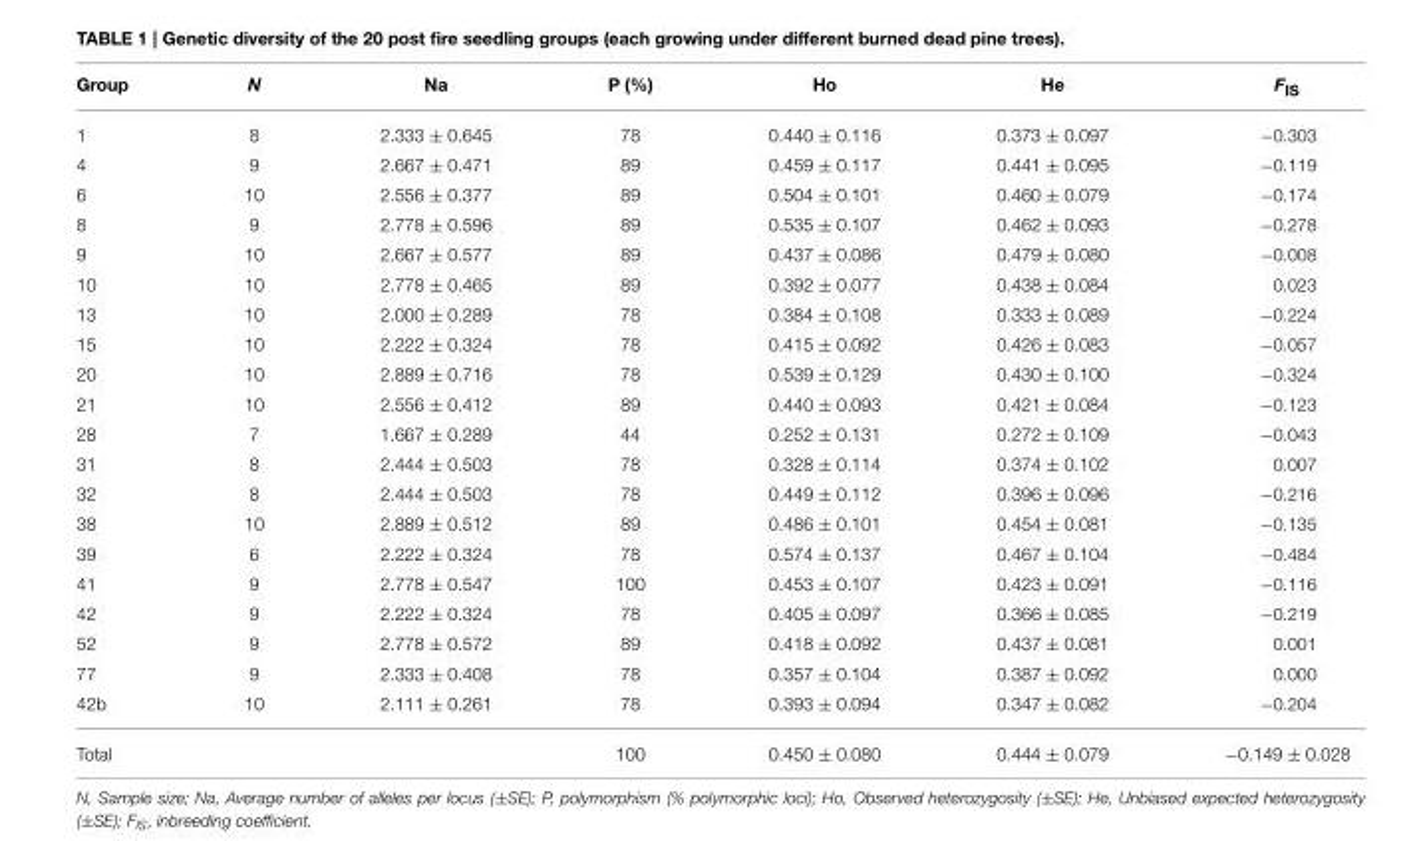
<table><thead><tr><td>Group</td><td>N</td><td>Na</td><td>P (%)</td><td>Ho</td><td>He</td><td>F<sub>IS</sub></td></tr></thead><tbody><tr><td>1</td><td>8</td><td>2.333 ± 0.645</td><td>78</td><td>0.440 ± 0.116</td><td>0.373 ± 0.097</td><td>−0.303</td></tr><tr><td>4</td><td>9</td><td>2.667 ± 0.471</td><td>89</td><td>0.459 ± 0.117</td><td>0.441 ± 0.095</td><td>−0.119</td></tr><tr><td>6</td><td>10</td><td>2.556 ± 0.377</td><td>89</td><td>0.504 ± 0.101</td><td>0.460 ± 0.079</td><td>−0.174</td></tr><tr><td>8</td><td>9</td><td>2.778 ± 0.596</td><td>89</td><td>0.535 ± 0.107</td><td>0.462 ± 0.093</td><td>−0.278</td></tr><tr><td>9</td><td>10</td><td>2.667 ± 0.577</td><td>89</td><td>0.437 ± 0.086</td><td>0.479 ± 0.080</td><td>−0.008</td></tr><tr><td>10</td><td>10</td><td>2.778 ± 0.465</td><td>89</td><td>0.392 ± 0.077</td><td>0.438 ± 0.084</td><td>0.023</td></tr><tr><td>13</td><td>10</td><td>2.000 ± 0.289</td><td>78</td><td>0.384 ± 0.108</td><td>0.333 ± 0.089</td><td>−0.224</td></tr><tr><td>15</td><td>10</td><td>2.222 ± 0.324</td><td>78</td><td>0.415 ± 0.092</td><td>0.426 ± 0.083</td><td>−0.057</td></tr><tr><td>20</td><td>10</td><td>2.889 ± 0.716</td><td>78</td><td>0.539 ± 0.129</td><td>0.430 ± 0.100</td><td>−0.324</td></tr><tr><td>21</td><td>10</td><td>2.556 ± 0.412</td><td>89</td><td>0.440 ± 0.093</td><td>0.421 ± 0.084</td><td>−0.123</td></tr><tr><td>28</td><td>7</td><td>1.667 ± 0.289</td><td>44</td><td>0.252 ± 0.131</td><td>0.272 ± 0.109</td><td>−0.043</td></tr><tr><td>31</td><td>8</td><td>2.444 ± 0.503</td><td>78</td><td>0.328 ± 0.114</td><td>0.374 ± 0.102</td><td>0.007</td></tr><tr><td>32</td><td>8</td><td>2.444 ± 0.503</td><td>78</td><td>0.449 ± 0.112</td><td>0.396 ± 0.096</td><td>−0.216</td></tr><tr><td>38</td><td>10</td><td>2.889 ± 0.512</td><td>89</td><td>0.486 ± 0.101</td><td>0.454 ± 0.081</td><td>−0.135</td></tr><tr><td>39</td><td>6</td><td>2.222 ± 0.324</td><td>78</td><td>0.574 ± 0.137</td><td>0.467 ± 0.104</td><td>−0.484</td></tr><tr><td>41</td><td>9</td><td>2.778 ± 0.547</td><td>100</td><td>0.453 ± 0.107</td><td>0.423 ± 0.091</td><td>−0.116</td></tr><tr><td>42</td><td>9</td><td>2.222 ± 0.324</td><td>78</td><td>0.405 ± 0.097</td><td>0.366 ± 0.085</td><td>−0.219</td></tr><tr><td>52</td><td>9</td><td>2.778 ± 0.572</td><td>89</td><td>0.418 ± 0.092</td><td>0.437 ± 0.081</td><td>0.001</td></tr><tr><td>77</td><td>9</td><td>2.333 ± 0.408</td><td>78</td><td>0.357 ± 0.104</td><td>0.387 ± 0.092</td><td>0.000</td></tr><tr><td>42b</td><td>10</td><td>2.111 ± 0.261</td><td>78</td><td>0.393 ± 0.094</td><td>0.347 ± 0.082</td><td>−0.204</td></tr><tr><td>Total</td><td></td><td></td><td>100</td><td>0.450 ± 0.080</td><td>0.444 ± 0.079</td><td>−0.149 ± 0.028</td></tr></tbody></table>